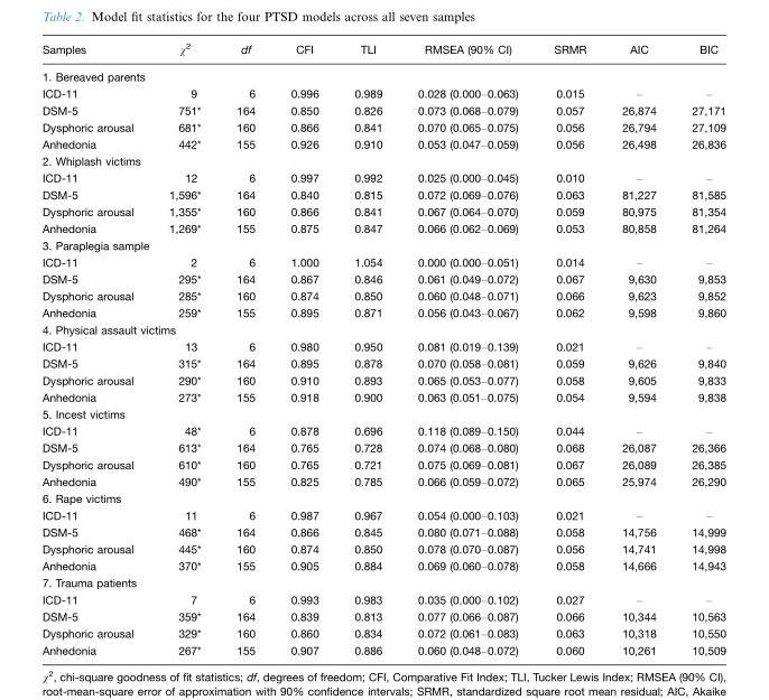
<table><thead><tr><td>Samples</td><td>χ<sup>2</sup></td><td>df</td><td>CFI</td><td>TLI</td><td>RMSEA (90% CI)</td><td>SRMR</td><td>AIC</td><td>BIC</td></tr></thead><tbody><tr><td colspan="9">1. Bereaved parents</td></tr><tr><td>ICD-11</td><td>9</td><td>6</td><td>0.996</td><td>0.989</td><td>0.028 (0.000–0.063)</td><td>0.015</td><td>–</td><td>–</td></tr><tr><td>DSM-5</td><td>751*</td><td>164</td><td>0.850</td><td>0.826</td><td>0.073 (0.068–0.079)</td><td>0.057</td><td>26,874</td><td>27,171</td></tr><tr><td>Dysphoric arousal</td><td>681*</td><td>160</td><td>0.866</td><td>0.841</td><td>0.070 (0.065–0.075)</td><td>0.056</td><td>26,794</td><td>27,109</td></tr><tr><td>Anhedonia</td><td>442*</td><td>155</td><td>0.926</td><td>0.910</td><td>0.053 (0.047–0.059)</td><td>0.056</td><td>26,498</td><td>26,836</td></tr><tr><td colspan="9">2. Whiplash victims</td></tr><tr><td>ICD-11</td><td>12</td><td>6</td><td>0.997</td><td>0.992</td><td>0.025 (0.000–0.045)</td><td>0.010</td><td>–</td><td>–</td></tr><tr><td>DSM-5</td><td>1,596*</td><td>164</td><td>0.840</td><td>0.815</td><td>0.072 (0.069–0.076)</td><td>0.063</td><td>81,227</td><td>81,585</td></tr><tr><td>Dysphoric arousal</td><td>1,355*</td><td>160</td><td>0.866</td><td>0.841</td><td>0.067 (0.064–0.070)</td><td>0.059</td><td>80,975</td><td>81,354</td></tr><tr><td>Anhedonia</td><td>1,269*</td><td>155</td><td>0.875</td><td>0.847</td><td>0.066 (0.062–0.069)</td><td>0.053</td><td>80,858</td><td>81,264</td></tr><tr><td colspan="9">3. Paraplegia sample</td></tr><tr><td>ICD-11</td><td>2</td><td>6</td><td>1.000</td><td>1.054</td><td>0.000 (0.000–0.051)</td><td>0.014</td><td>–</td><td>–</td></tr><tr><td>DSM-5</td><td>295*</td><td>164</td><td>0.867</td><td>0.846</td><td>0.061 (0.049–0.072)</td><td>0.067</td><td>9,630</td><td>9,853</td></tr><tr><td>Dysphoric arousal</td><td>285*</td><td>160</td><td>0.874</td><td>0.850</td><td>0.060 (0.048–0.071)</td><td>0.066</td><td>9,623</td><td>9,852</td></tr><tr><td>Anhedonia</td><td>259*</td><td>155</td><td>0.895</td><td>0.871</td><td>0.056 (0.043–0.067)</td><td>0.062</td><td>9,598</td><td>9,860</td></tr><tr><td colspan="9">4. Physical assault victims</td></tr><tr><td>ICD-11</td><td>13</td><td>6</td><td>0.980</td><td>0.950</td><td>0.081 (0.019–0.139)</td><td>0.021</td><td>–</td><td>–</td></tr><tr><td>DSM-5</td><td>315*</td><td>164</td><td>0.895</td><td>0.878</td><td>0.070 (0.058–0.081)</td><td>0.059</td><td>9,626</td><td>9,840</td></tr><tr><td>Dysphoric arousal</td><td>290*</td><td>160</td><td>0.910</td><td>0.893</td><td>0.065 (0.053–0.077)</td><td>0.058</td><td>9,605</td><td>9,833</td></tr><tr><td>Anhedonia</td><td>273*</td><td>155</td><td>0.918</td><td>0.900</td><td>0.063 (0.051–0.075)</td><td>0.054</td><td>9,594</td><td>9,838</td></tr><tr><td colspan="9">5. Incest victims</td></tr><tr><td>ICD-11</td><td>48*</td><td>6</td><td>0.878</td><td>0.696</td><td>0.118 (0.089–0.150)</td><td>0.044</td><td>–</td><td>–</td></tr><tr><td>DSM-5</td><td>613*</td><td>164</td><td>0.765</td><td>0.728</td><td>0.074 (0.068–0.080)</td><td>0.068</td><td>26,087</td><td>26,366</td></tr><tr><td>Dysphoric arousal</td><td>610*</td><td>160</td><td>0.765</td><td>0.721</td><td>0.075 (0.069–0.081)</td><td>0.067</td><td>26,089</td><td>26,385</td></tr><tr><td>Anhedonia</td><td>490*</td><td>155</td><td>0.825</td><td>0.785</td><td>0.066 (0.059–0.072)</td><td>0.065</td><td>25,974</td><td>26,290</td></tr><tr><td colspan="9">6. Rape victims</td></tr><tr><td>ICD-11</td><td>11</td><td>6</td><td>0.987</td><td>0.967</td><td>0.054 (0.000–0.103)</td><td>0.021</td><td>–</td><td>–</td></tr><tr><td>DSM-5</td><td>468*</td><td>164</td><td>0.866</td><td>0.845</td><td>0.080 (0.071–0.088)</td><td>0.058</td><td>14,756</td><td>14,999</td></tr><tr><td>Dysphoric arousal</td><td>445*</td><td>160</td><td>0.874</td><td>0.850</td><td>0.078 (0.070–0.087)</td><td>0.056</td><td>14,741</td><td>14,998</td></tr><tr><td>Anhedonia</td><td>370*</td><td>155</td><td>0.905</td><td>0.884</td><td>0.069 (0.060–0.078)</td><td>0.058</td><td>14,666</td><td>14,943</td></tr><tr><td colspan="9">7. Trauma patients</td></tr><tr><td>ICD-11</td><td>7</td><td>6</td><td>0.993</td><td>0.983</td><td>0.035 (0.000–0.102)</td><td>0.027</td><td>–</td><td>–</td></tr><tr><td>DSM-5</td><td>359*</td><td>164</td><td>0.839</td><td>0.813</td><td>0.077 (0.066–0.087)</td><td>0.066</td><td>10,344</td><td>10,563</td></tr><tr><td>Dysphoric arousal</td><td>329*</td><td>160</td><td>0.860</td><td>0.834</td><td>0.072 (0.061–0.083)</td><td>0.063</td><td>10,318</td><td>10,550</td></tr><tr><td>Anhedonia</td><td>267*</td><td>155</td><td>0.907</td><td>0.886</td><td>0.060 (0.048–0.072)</td><td>0.060</td><td>10,261</td><td>10,509</td></tr></tbody></table>